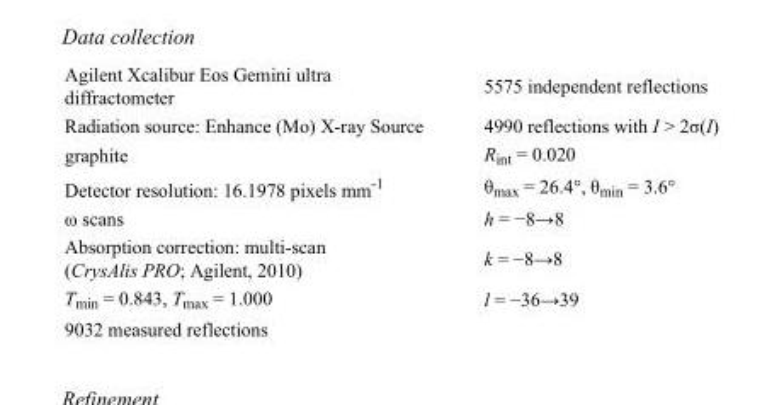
<table><tbody><tr><td>Agilent Xcalibur Eos Gemini ultra diffractometer</td><td>5575 independent reflections</td></tr><tr><td>Radiation source: Enhance (Mo) X-ray Source</td><td>4990 reflections with I &gt; 2σ(I)</td></tr><tr><td>graphite</td><td>R<sub>int</sub> = 0.020</td></tr><tr><td>Detector resolution: 16.1978 pixels mm<sup>-1</sup></td><td>θ<sub>max</sub> = 26.4°, θ<sub>min</sub> = 3.6°</td></tr><tr><td>ω scans</td><td>h = −8→8</td></tr><tr><td>Absorption correction: multi-scan (CrysAlis PRO; Agilent, 2010)</td><td>k = −8→8</td></tr><tr><td>T<sub>min</sub> = 0.843, T<sub>max</sub> = 1.000</td><td>l = −36→39</td></tr><tr><td>9032 measured reflections</td><td></td></tr></tbody></table>